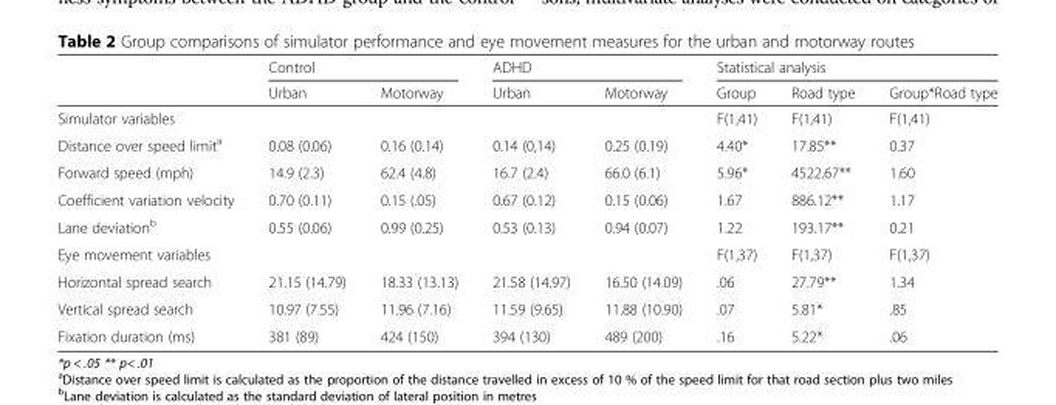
<table><thead><tr><td rowspan="2"></td><td colspan="2">Control</td><td colspan="2">ADHD</td><td colspan="3">Statistical analysis</td></tr><tr><td>Urban</td><td>Motorway</td><td>Urban</td><td>Motorway</td><td>Group</td><td>Road type</td><td>Group*Road type</td></tr></thead><tbody><tr><td colspan="5">Simulator variables</td><td>F(1,41)</td><td>F(1,41)</td><td>F(1,41)</td></tr><tr><td>Distance over speed limit<sup>a</sup></td><td>0.08 (0.06)</td><td>0.16 (0.14)</td><td>0.14 (0,14)</td><td>0.25 (0.19)</td><td>4.40*</td><td>17.85**</td><td>0.37</td></tr><tr><td>Forward speed (mph)</td><td>14.9 (2.3)</td><td>62.4 (4.8)</td><td>16.7 (2.4)</td><td>66.0 (6.1)</td><td>5.96*</td><td>4522.67**</td><td>1.60</td></tr><tr><td>Coefficient variation velocity</td><td>0.70 (0.11)</td><td>0.15 (.05)</td><td>0.67 (0.12)</td><td>0.15 (0.06)</td><td>1.67</td><td>886.12**</td><td>1.17</td></tr><tr><td>Lane deviation<sup>b</sup></td><td>0.55 (0.06)</td><td>0.99 (0.25)</td><td>0.53 (0.13)</td><td>0.94 (0.07)</td><td>1.22</td><td>193.17**</td><td>0.21</td></tr><tr><td colspan="5">Eye movement variables</td><td>F(1,37)</td><td>F(1,37)</td><td>F(1,37)</td></tr><tr><td>Horizontal spread search</td><td>21.15 (14.79)</td><td>18.33 (13.13)</td><td>21.58 (14.97)</td><td>16.50 (14.09)</td><td>.06</td><td>27.79**</td><td>1.34</td></tr><tr><td>Vertical spread search</td><td>10.97 (7.55)</td><td>11.96 (7.16)</td><td>11.59 (9.65)</td><td>11.88 (10.90)</td><td>.07</td><td>5.81*</td><td>.85</td></tr><tr><td>Fixation duration (ms)</td><td>381 (89)</td><td>424 (150)</td><td>394 (130)</td><td>489 (200)</td><td>.16</td><td>5.22*</td><td>.06</td></tr></tbody></table>